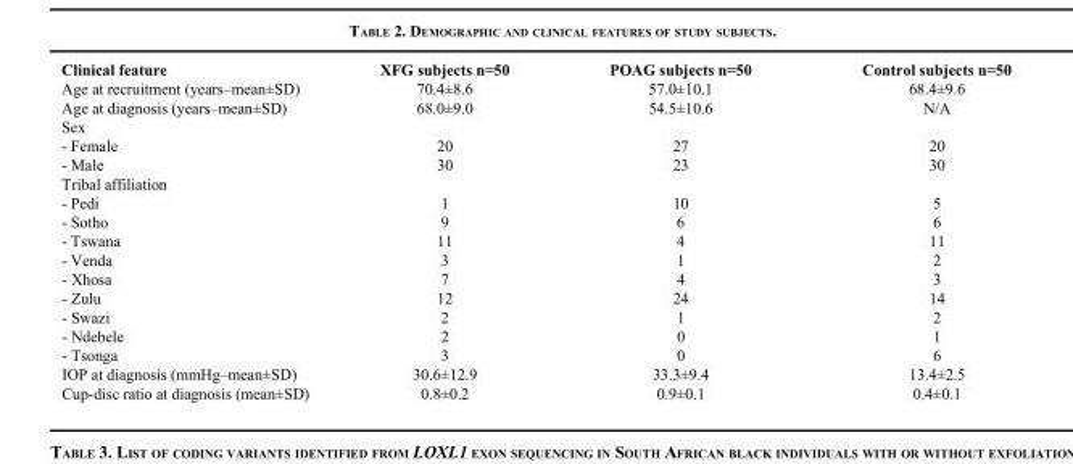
<table><thead><tr><td>Clinical feature</td><td>XFG subjects n=50</td><td>POAG subjects n=50</td><td>Control subjects n=50</td></tr></thead><tbody><tr><td>Age at recruitment (years–mean±SD)</td><td>70.4±8.6</td><td>57.0±10.1</td><td>68.4±9.6</td></tr><tr><td>Age at diagnosis (years–mean±SD)</td><td>68.0±9.0</td><td>54.5±10.6</td><td>N/A</td></tr><tr><td colspan="4">Sex</td></tr><tr><td>- Female</td><td>20</td><td>27</td><td>20</td></tr><tr><td>- Male</td><td>30</td><td>23</td><td>30</td></tr><tr><td colspan="4">Tribal affiliation</td></tr><tr><td>- Pedi</td><td>1</td><td>10</td><td>5</td></tr><tr><td>- Sotho</td><td>9</td><td>6</td><td>6</td></tr><tr><td>- Tswana</td><td>11</td><td>4</td><td>11</td></tr><tr><td>- Venda</td><td>3</td><td>1</td><td>2</td></tr><tr><td>- Xhosa</td><td>7</td><td>4</td><td>3</td></tr><tr><td>- Zulu</td><td>12</td><td>24</td><td>14</td></tr><tr><td>- Swazi</td><td>2</td><td>1</td><td>2</td></tr><tr><td>- Ndebele</td><td>2</td><td>0</td><td>1</td></tr><tr><td>- Tsonga</td><td>3</td><td>0</td><td>6</td></tr><tr><td>IOP at diagnosis (mmHg–mean±SD)</td><td>30.6±12.9</td><td>33.3±9.4</td><td>13.4±2.5</td></tr><tr><td>Cup-disc ratio at diagnosis (mean±SD)</td><td>0.8±0.2</td><td>0.9±0.1</td><td>0.4±0.1</td></tr></tbody></table>